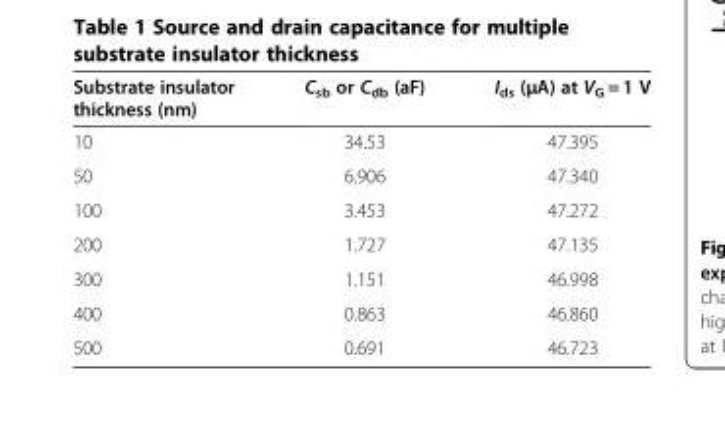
<table><thead><tr><td>Substrate insulator thickness (nm)</td><td>C<sub>sb</sub> or C<sub>db</sub> (aF)</td><td>I<sub>ds</sub> (μA) at V<sub>G</sub> = 1 V</td></tr></thead><tbody><tr><td>10</td><td>34.53</td><td>47.395</td></tr><tr><td>50</td><td>6.906</td><td>47.340</td></tr><tr><td>100</td><td>3.453</td><td>47.272</td></tr><tr><td>200</td><td>1.727</td><td>47.135</td></tr><tr><td>300</td><td>1.151</td><td>46.998</td></tr><tr><td>400</td><td>0.863</td><td>46.860</td></tr><tr><td>500</td><td>0.691</td><td>46.723</td></tr></tbody></table>